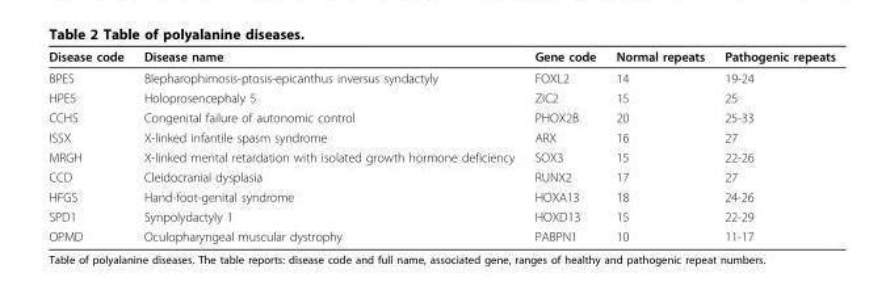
<table><thead><tr><td>Disease code</td><td>Disease name</td><td>Gene code</td><td>Normal repeats</td><td>Pathogenic repeats</td></tr></thead><tbody><tr><td>BPES</td><td>Blepharophimosis-ptosis-epicanthus inversus syndactyly</td><td>FOXL2</td><td>14</td><td>19-24</td></tr><tr><td>HPE5</td><td>Holoprosencephaly 5</td><td>ZIC2</td><td>15</td><td>25</td></tr><tr><td>CCHS</td><td>Congenital failure of autonomic control</td><td>PHOX2B</td><td>20</td><td>25-33</td></tr><tr><td>ISSX</td><td>X-linked infantile spasm syndrome</td><td>ARX</td><td>16</td><td>27</td></tr><tr><td>MRGH</td><td>X-linked mental retardation with isolated growth hormone deficiency</td><td>SOX3</td><td>15</td><td>22-26</td></tr><tr><td>CCD</td><td>Cleidocranial dysplasia</td><td>RUNX2</td><td>17</td><td>27</td></tr><tr><td>HFGS</td><td>Hand-foot-genital syndrome</td><td>HOXA13</td><td>18</td><td>24-26</td></tr><tr><td>SPD1</td><td>Synpolydactyly 1</td><td>HOXD13</td><td>15</td><td>22-29</td></tr><tr><td>OPMD</td><td>Oculopharyngeal muscular dystrophy</td><td>PABPN1</td><td>10</td><td>11-17</td></tr></tbody></table>